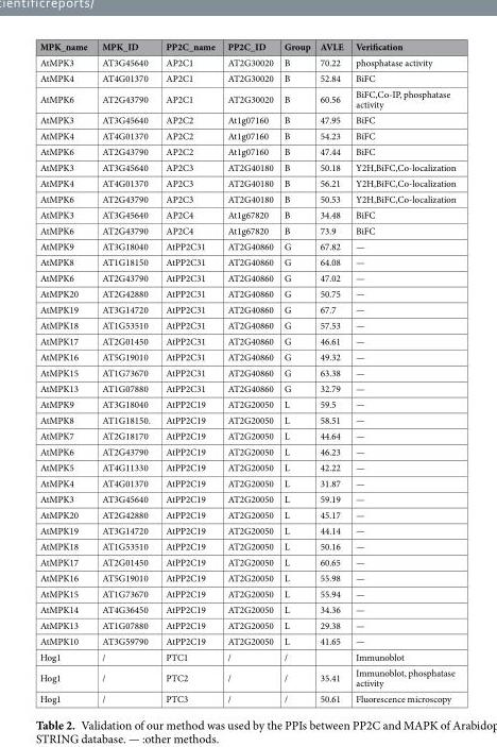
<table><thead><tr><td>MPK_name</td><td>MPK_ID</td><td>PP2C_name</td><td>PP2C_ID</td><td>Group</td><td>AVLE</td><td>Verification</td></tr></thead><tbody><tr><td>AtMPK3</td><td>AT3G45640</td><td>AP2C1</td><td>AT2G30020</td><td>B</td><td>70.22</td><td>phosphatase activity</td></tr><tr><td>AtMPK4</td><td>AT4G01370</td><td>AP2C1</td><td>AT2G30020</td><td>B</td><td>52.84</td><td>BiFC</td></tr><tr><td>AtMPK6</td><td>AT2G43790</td><td>AP2C1</td><td>AT2G30020</td><td>B</td><td>60.56</td><td>BiFC,Co-IP, phosphatase activity</td></tr><tr><td>AtMPK3</td><td>AT3G45640</td><td>AP2C2</td><td>At1g07160</td><td>B</td><td>47.95</td><td>BiFC</td></tr><tr><td>AtMPK4</td><td>AT4G01370</td><td>AP2C2</td><td>At1g07160</td><td>B</td><td>54.23</td><td>BiFC</td></tr><tr><td>AtMPK6</td><td>AT2G43790</td><td>AP2C2</td><td>At1g07160</td><td>B</td><td>47.44</td><td>BiFC</td></tr><tr><td>AtMPK3</td><td>AT3G45640</td><td>AP2C3</td><td>AT2G40180</td><td>B</td><td>50.18</td><td>Y2H,BiFC,Co-localization</td></tr><tr><td>AtMPK4</td><td>AT4G01370</td><td>AP2C3</td><td>AT2G40180</td><td>B</td><td>56.21</td><td>Y2H,BiFC,Co-localization</td></tr><tr><td>AtMPK6</td><td>AT2G43790</td><td>AP2C3</td><td>AT2G40180</td><td>B</td><td>50.53</td><td>Y2H,BiFC,Co-localization</td></tr><tr><td>AtMPK3</td><td>AT3G45640</td><td>AP2C4</td><td>At1g67820</td><td>B</td><td>34.48</td><td>BiFC</td></tr><tr><td>AtMPK6</td><td>AT2G43790</td><td>AP2C4</td><td>At1g67820</td><td>B</td><td>73.9</td><td>BiFC</td></tr><tr><td>AtMPK9</td><td>AT3G18040</td><td>AtPP2C31</td><td>AT2G40860</td><td>G</td><td>67.82</td><td>—</td></tr><tr><td>AtMPK8</td><td>AT1G18150</td><td>AtPP2C31</td><td>AT2G40860</td><td>G</td><td>64.08</td><td>—</td></tr><tr><td>AtMPK6</td><td>AT2G43790</td><td>AtPP2C31</td><td>AT2G40860</td><td>G</td><td>47.02</td><td>—</td></tr><tr><td>AtMPK20</td><td>AT2G42880</td><td>AtPP2C31</td><td>AT2G40860</td><td>G</td><td>50.75</td><td>—</td></tr><tr><td>AtMPK19</td><td>AT3G14720</td><td>AtPP2C31</td><td>AT2G40860</td><td>G</td><td>67.7</td><td>—</td></tr><tr><td>AtMPK18</td><td>AT1G53510</td><td>AtPP2C31</td><td>AT2G40860</td><td>G</td><td>57.53</td><td>—</td></tr><tr><td>AtMPK17</td><td>AT2G01450</td><td>AtPP2C31</td><td>AT2G40860</td><td>G</td><td>46.61</td><td>—</td></tr><tr><td>AtMPK16</td><td>AT5G19010</td><td>AtPP2C31</td><td>AT2G40860</td><td>G</td><td>49.32</td><td>—</td></tr><tr><td>AtMPK15</td><td>AT1G73670</td><td>AtPP2C31</td><td>AT2G40860</td><td>G</td><td>63.38</td><td>—</td></tr><tr><td>AtMPK13</td><td>AT1G07880</td><td>AtPP2C31</td><td>AT2G40860</td><td>G</td><td>32.79</td><td>—</td></tr><tr><td>AtMPK9</td><td>AT3G18040</td><td>AtPP2C19</td><td>AT2G20050</td><td>L</td><td>59.5</td><td>—</td></tr><tr><td>AtMPK8</td><td>AT1G18150.</td><td>AtPP2C19</td><td>AT2G20050</td><td>L</td><td>58.51</td><td>—</td></tr><tr><td>AtMPK7</td><td>AT2G18170</td><td>AtPP2C19</td><td>AT2G20050</td><td>L</td><td>44.64</td><td>—</td></tr><tr><td>AtMPK6</td><td>AT2G43790</td><td>AtPP2C19</td><td>AT2G20050</td><td>L</td><td>46.23</td><td>—</td></tr><tr><td>AtMPK5</td><td>AT4G11330</td><td>AtPP2C19</td><td>AT2G20050</td><td>L</td><td>42.22</td><td>—</td></tr><tr><td>AtMPK4</td><td>AT4G01370</td><td>AtPP2C19</td><td>AT2G20050</td><td>L</td><td>31.87</td><td>—</td></tr><tr><td>AtMPK3</td><td>AT3G45640</td><td>AtPP2C19</td><td>AT2G20050</td><td>L</td><td>59.19</td><td>—</td></tr><tr><td>AtMPK20</td><td>AT2G42880</td><td>AtPP2C19</td><td>AT2G20050</td><td>L</td><td>45.17</td><td>—</td></tr><tr><td>AtMPK19</td><td>AT3G14720</td><td>AtPP2C19</td><td>AT2G20050</td><td>L</td><td>44.14</td><td>—</td></tr><tr><td>AtMPK18</td><td>AT1G53510</td><td>AtPP2C19</td><td>AT2G20050</td><td>L</td><td>50.16</td><td>—</td></tr><tr><td>AtMPK17</td><td>AT2G01450</td><td>AtPP2C19</td><td>AT2G20050</td><td>L</td><td>60.65</td><td>—</td></tr><tr><td>AtMPK16</td><td>AT5G19010</td><td>AtPP2C19</td><td>AT2G20050</td><td>L</td><td>55.98</td><td>—</td></tr><tr><td>AtMPK15</td><td>AT1G73670</td><td>AtPP2C19</td><td>AT2G20050</td><td>L</td><td>55.94</td><td>—</td></tr><tr><td>AtMPK14</td><td>AT4G36450</td><td>AtPP2C19</td><td>AT2G20050</td><td>L</td><td>34.36</td><td>—</td></tr><tr><td>AtMPK13</td><td>AT1G07880</td><td>AtPP2C19</td><td>AT2G20050</td><td>L</td><td>29.38</td><td>—</td></tr><tr><td>AtMPK10</td><td>AT3G59790</td><td>AtPP2C19</td><td>AT2G20050</td><td>L</td><td>41.65</td><td>—</td></tr><tr><td>Hog1</td><td>/</td><td>PTC1</td><td>/</td><td>/</td><td></td><td>Immunoblot</td></tr><tr><td>Hog1</td><td>/</td><td>PTC2</td><td>/</td><td>/</td><td>35.41</td><td>Immunoblot, phosphatase activity</td></tr><tr><td>Hog1</td><td>/</td><td>PTC3</td><td>/</td><td>/</td><td>50.61</td><td>Fluorescence microscopy</td></tr></tbody></table>